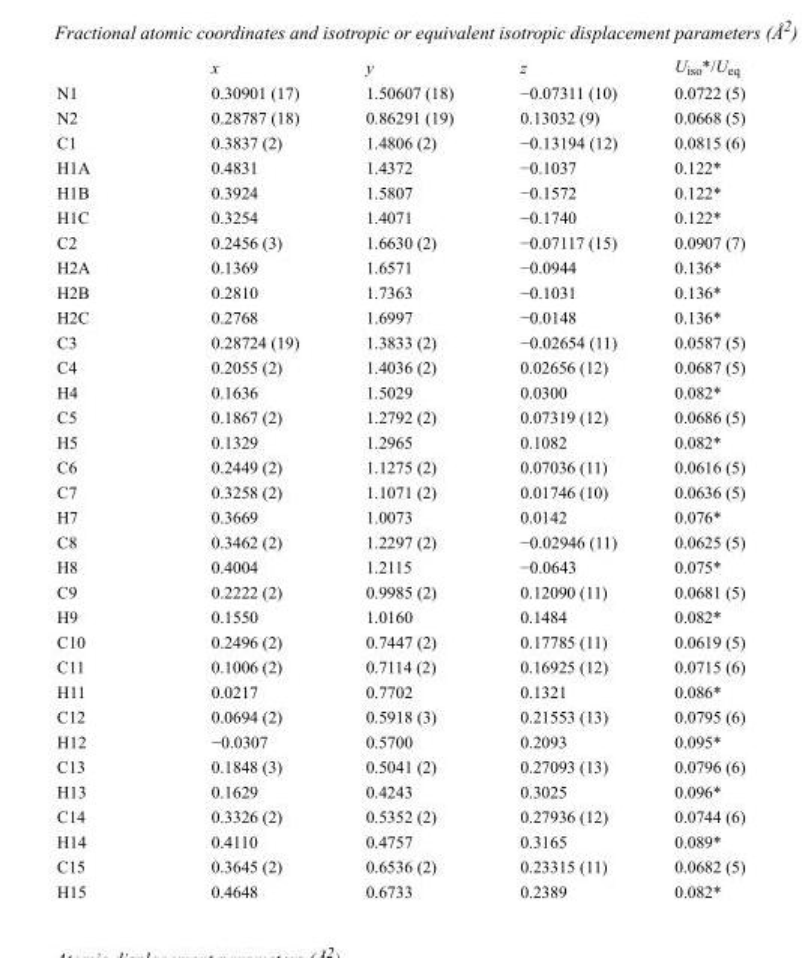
<table><thead><tr><td></td><td>x</td><td>y</td><td>z</td><td>U<sub>iso</sub>*/U<sub>eq</sub></td></tr></thead><tbody><tr><td>N1</td><td>0.30901 (17)</td><td>1.50607 (18)</td><td>−0.07311 (10)</td><td>0.0722 (5)</td></tr><tr><td>N2</td><td>0.28787 (18)</td><td>0.86291 (19)</td><td>0.13032 (9)</td><td>0.0668 (5)</td></tr><tr><td>C1</td><td>0.3837 (2)</td><td>1.4806 (2)</td><td>−0.13194 (12)</td><td>0.0815 (6)</td></tr><tr><td>H1A</td><td>0.4831</td><td>1.4372</td><td>−0.1037</td><td>0.122*</td></tr><tr><td>H1B</td><td>0.3924</td><td>1.5807</td><td>−0.1572</td><td>0.122*</td></tr><tr><td>H1C</td><td>0.3254</td><td>1.4071</td><td>−0.1740</td><td>0.122*</td></tr><tr><td>C2</td><td>0.2456 (3)</td><td>1.6630 (2)</td><td>−0.07117 (15)</td><td>0.0907 (7)</td></tr><tr><td>H2A</td><td>0.1369</td><td>1.6571</td><td>−0.0944</td><td>0.136*</td></tr><tr><td>H2B</td><td>0.2810</td><td>1.7363</td><td>−0.1031</td><td>0.136*</td></tr><tr><td>H2C</td><td>0.2768</td><td>1.6997</td><td>−0.0148</td><td>0.136*</td></tr><tr><td>C3</td><td>0.28724 (19)</td><td>1.3833 (2)</td><td>−0.02654 (11)</td><td>0.0587 (5)</td></tr><tr><td>C4</td><td>0.2055 (2)</td><td>1.4036 (2)</td><td>0.02656 (12)</td><td>0.0687 (5)</td></tr><tr><td>H4</td><td>0.1636</td><td>1.5029</td><td>0.0300</td><td>0.082*</td></tr><tr><td>C5</td><td>0.1867 (2)</td><td>1.2792 (2)</td><td>0.07319 (12)</td><td>0.0686 (5)</td></tr><tr><td>H5</td><td>0.1329</td><td>1.2965</td><td>0.1082</td><td>0.082*</td></tr><tr><td>C6</td><td>0.2449 (2)</td><td>1.1275 (2)</td><td>0.07036 (11)</td><td>0.0616 (5)</td></tr><tr><td>C7</td><td>0.3258 (2)</td><td>1.1071 (2)</td><td>0.01746 (10)</td><td>0.0636 (5)</td></tr><tr><td>H7</td><td>0.3669</td><td>1.0073</td><td>0.0142</td><td>0.076*</td></tr><tr><td>C8</td><td>0.3462 (2)</td><td>1.2297 (2)</td><td>−0.02946 (11)</td><td>0.0625 (5)</td></tr><tr><td>H8</td><td>0.4004</td><td>1.2115</td><td>−0.0643</td><td>0.075*</td></tr><tr><td>C9</td><td>0.2222 (2)</td><td>0.9985 (2)</td><td>0.12090 (11)</td><td>0.0681 (5)</td></tr><tr><td>H9</td><td>0.1550</td><td>1.0160</td><td>0.1484</td><td>0.082*</td></tr><tr><td>C10</td><td>0.2496 (2)</td><td>0.7447 (2)</td><td>0.17785 (11)</td><td>0.0619 (5)</td></tr><tr><td>C11</td><td>0.1006 (2)</td><td>0.7114 (2)</td><td>0.16925 (12)</td><td>0.0715 (6)</td></tr><tr><td>H11</td><td>0.0217</td><td>0.7702</td><td>0.1321</td><td>0.086*</td></tr><tr><td>C12</td><td>0.0694 (2)</td><td>0.5918 (3)</td><td>0.21553 (13)</td><td>0.0795 (6)</td></tr><tr><td>H12</td><td>−0.0307</td><td>0.5700</td><td>0.2093</td><td>0.095*</td></tr><tr><td>C13</td><td>0.1848 (3)</td><td>0.5041 (2)</td><td>0.27093 (13)</td><td>0.0796 (6)</td></tr><tr><td>H13</td><td>0.1629</td><td>0.4243</td><td>0.3025</td><td>0.096*</td></tr><tr><td>C14</td><td>0.3326 (2)</td><td>0.5352 (2)</td><td>0.27936 (12)</td><td>0.0744 (6)</td></tr><tr><td>H14</td><td>0.4110</td><td>0.4757</td><td>0.3165</td><td>0.089*</td></tr><tr><td>C15</td><td>0.3645 (2)</td><td>0.6536 (2)</td><td>0.23315 (11)</td><td>0.0682 (5)</td></tr><tr><td>H15</td><td>0.4648</td><td>0.6733</td><td>0.2389</td><td>0.082*</td></tr></tbody></table>